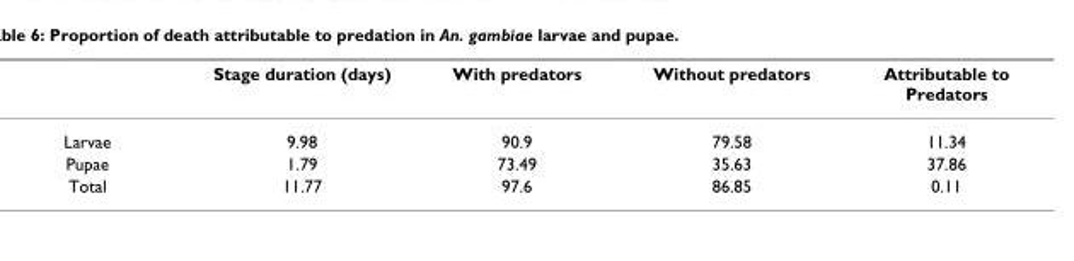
<table><thead><tr><td></td><td>Stage duration (days)</td><td>With predators</td><td>Without predators</td><td>Attributable to Predators</td></tr></thead><tbody><tr><td>Larvae</td><td>9.98</td><td>90.9</td><td>79.58</td><td>11.34</td></tr><tr><td>Pupae</td><td>1.79</td><td>73.49</td><td>35.63</td><td>37.86</td></tr><tr><td>Total</td><td>11.77</td><td>97.6</td><td>86.85</td><td>0.11</td></tr></tbody></table>